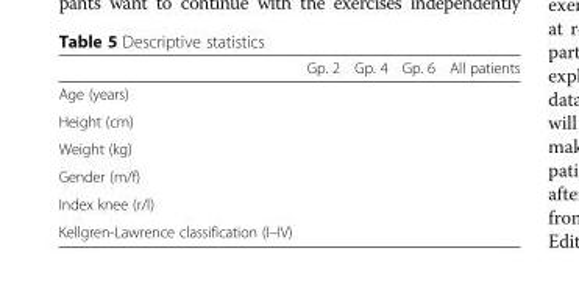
<table><thead><tr><td></td><td>Gp. 2</td><td>Gp. 4</td><td>Gp. 6</td><td>All patients</td></tr></thead><tbody><tr><td colspan="5">Age (years)</td></tr><tr><td colspan="5">Height (cm)</td></tr><tr><td colspan="5">Weight (kg)</td></tr><tr><td colspan="5">Gender (m/f)</td></tr><tr><td colspan="5">Index knee (r/l)</td></tr><tr><td>Kellgren-Lawrence classification (I–IV)</td><td></td><td></td><td></td><td></td></tr></tbody></table>